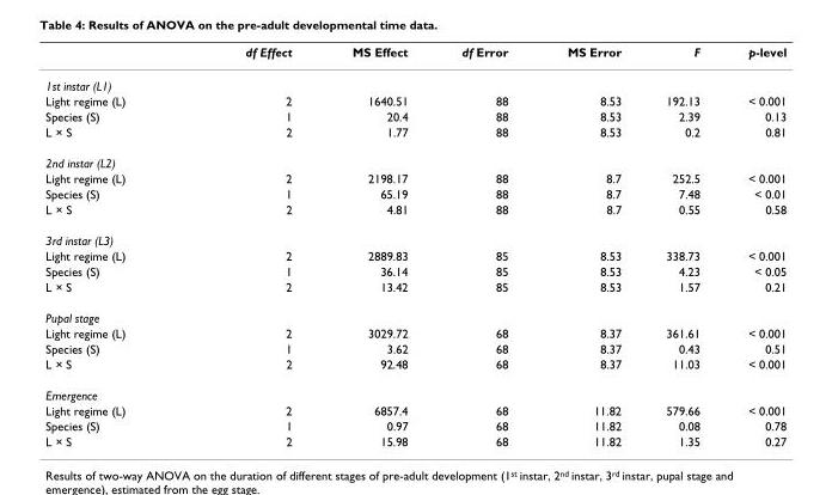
<table><thead><tr><td></td><td>df Effect</td><td>MS Effect</td><td>df Error</td><td>MS Error</td><td>F</td><td>p-level</td></tr></thead><tbody><tr><td colspan="7">1st instar (L1)</td></tr><tr><td>Light regime (L)</td><td>2</td><td>1640.51</td><td>88</td><td>8.53</td><td>192.13</td><td>&lt; 0.001</td></tr><tr><td>Species (S)</td><td>1</td><td>20.4</td><td>88</td><td>8.53</td><td>2.39</td><td>0.13</td></tr><tr><td>L × S</td><td>2</td><td>1.77</td><td>88</td><td>8.53</td><td>0.2</td><td>0.81</td></tr><tr><td colspan="7">2nd instar (L2)</td></tr><tr><td>Light regime (L)</td><td>2</td><td>2198.17</td><td>88</td><td>8.7</td><td>252.5</td><td>&lt; 0.001</td></tr><tr><td>Species (S)</td><td>1</td><td>65.19</td><td>88</td><td>8.7</td><td>7.48</td><td>&lt; 0.01</td></tr><tr><td>L × S</td><td>2</td><td>4.81</td><td>88</td><td>8.7</td><td>0.55</td><td>0.58</td></tr><tr><td colspan="7">3rd instar (L3)</td></tr><tr><td>Light regime (L)</td><td>2</td><td>2889.83</td><td>85</td><td>8.53</td><td>338.73</td><td>&lt; 0.001</td></tr><tr><td>Species (S)</td><td>1</td><td>36.14</td><td>85</td><td>8.53</td><td>4.23</td><td>&lt; 0.05</td></tr><tr><td>L × S</td><td>2</td><td>13.42</td><td>85</td><td>8.53</td><td>1.57</td><td>0.21</td></tr><tr><td colspan="7">Pupal stage</td></tr><tr><td>Light regime (L)</td><td>2</td><td>3029.72</td><td>68</td><td>8.37</td><td>361.61</td><td>&lt; 0.001</td></tr><tr><td>Species (S)</td><td>1</td><td>3.62</td><td>68</td><td>8.37</td><td>0.43</td><td>0.51</td></tr><tr><td>L × S</td><td>2</td><td>92.48</td><td>68</td><td>8.37</td><td>11.03</td><td>&lt; 0.001</td></tr><tr><td colspan="7">Emergence</td></tr><tr><td>Light regime (L)</td><td>2</td><td>6857.4</td><td>68</td><td>11.82</td><td>579.66</td><td>&lt; 0.001</td></tr><tr><td>Species (S)</td><td>1</td><td>0.97</td><td>68</td><td>11.82</td><td>0.08</td><td>0.78</td></tr><tr><td>L × S</td><td>2</td><td>15.98</td><td>68</td><td>11.82</td><td>1.35</td><td>0.27</td></tr></tbody></table>